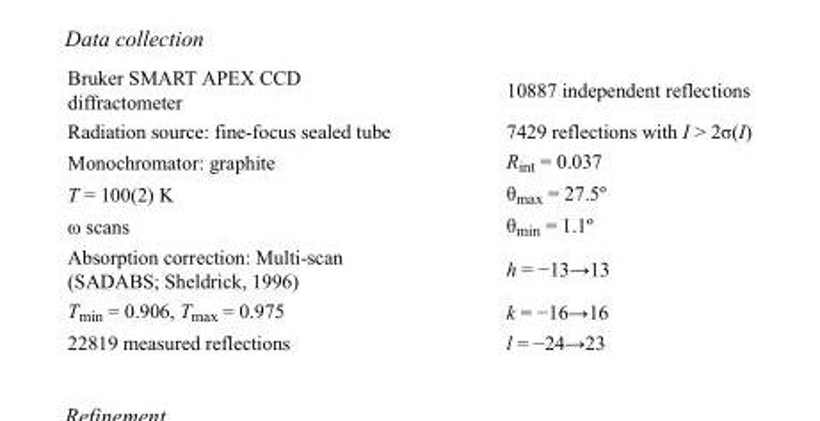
<table><tbody><tr><td>Bruker SMART APEX CCD diffractometer</td><td>10887 independent reflections</td></tr><tr><td>Radiation source: fine-focus sealed tube</td><td>7429 reflections with I &gt; 2σ(I)</td></tr><tr><td>Monochromator: graphite</td><td>R<sub>int</sub> = 0.037</td></tr><tr><td>T = 100(2) K</td><td>θ<sub>max</sub> = 27.5º</td></tr><tr><td>ω scans</td><td>θ<sub>min</sub> = 1.1º</td></tr><tr><td>Absorption correction: Multi-scan (SADABS; Sheldrick, 1996)</td><td>h = −13→13</td></tr><tr><td>T<sub>min</sub> = 0.906, T<sub>max</sub> = 0.975</td><td>k = −16→16</td></tr><tr><td>22819 measured reflections</td><td>l = −24→23</td></tr></tbody></table>